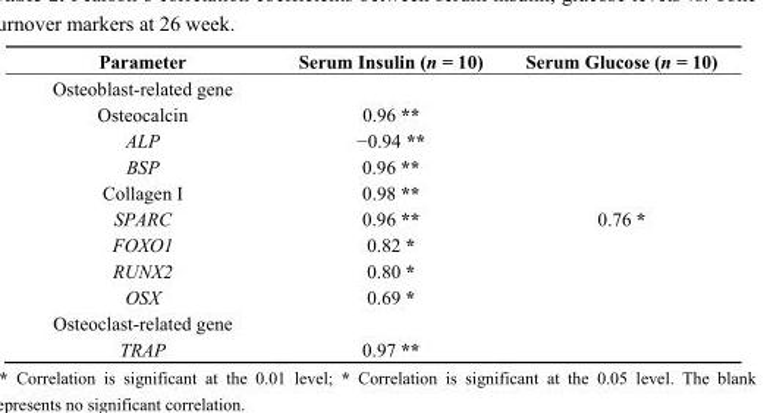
<table><thead><tr><td>Parameter</td><td>Serum Insulin (n = 10)</td><td>Serum Glucose (n = 10)</td></tr></thead><tbody><tr><td colspan="3">Osteoblast-related gene</td></tr><tr><td>Osteocalcin</td><td>0.96 **</td><td></td></tr><tr><td>ALP</td><td>−0.94 **</td><td></td></tr><tr><td>BSP</td><td>0.96 **</td><td></td></tr><tr><td>Collagen I</td><td>0.98 **</td><td></td></tr><tr><td>SPARC</td><td>0.96 **</td><td>0.76 *</td></tr><tr><td>FOXO1</td><td>0.82 *</td><td></td></tr><tr><td>RUNX2</td><td>0.80 *</td><td></td></tr><tr><td>OSX</td><td>0.69 *</td><td></td></tr><tr><td colspan="3">Osteoclast-related gene</td></tr><tr><td>TRAP</td><td>0.97 **</td><td></td></tr></tbody></table>